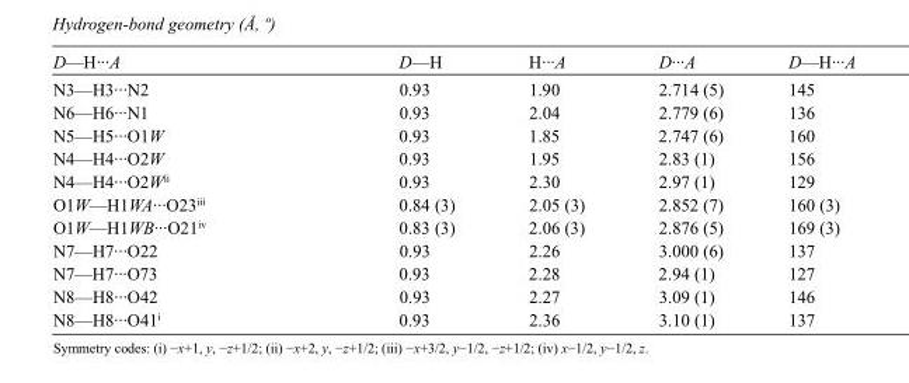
<table><tbody><tr><td>D—H···A</td><td>D—H</td><td>H···A</td><td>D···A</td><td>D—H···A</td></tr><tr><td>N3—H3···N2</td><td>0.93</td><td>1.90</td><td>2.714 (5)</td><td>145</td></tr><tr><td>N6—H6···N1</td><td>0.93</td><td>2.04</td><td>2.779 (6)</td><td>136</td></tr><tr><td>N5—H5···O1W</td><td>0.93</td><td>1.85</td><td>2.747 (6)</td><td>160</td></tr><tr><td>N4—H4···O2W</td><td>0.93</td><td>1.95</td><td>2.83 (1)</td><td>156</td></tr><tr><td>N4—H4···O2W<sup>ii</sup></td><td>0.93</td><td>2.30</td><td>2.97 (1)</td><td>129</td></tr><tr><td>O1W—H1WA···O23<sup>iii</sup></td><td>0.84 (3)</td><td>2.05 (3)</td><td>2.852 (7)</td><td>160 (3)</td></tr><tr><td>O1W—H1WB···O21<sup>iv</sup></td><td>0.83 (3)</td><td>2.06 (3)</td><td>2.876 (5)</td><td>169 (3)</td></tr><tr><td>N7—H7···O22</td><td>0.93</td><td>2.26</td><td>3.000 (6)</td><td>137</td></tr><tr><td>N7—H7···O73</td><td>0.93</td><td>2.28</td><td>2.94 (1)</td><td>127</td></tr><tr><td>N8—H8···O42</td><td>0.93</td><td>2.27</td><td>3.09 (1)</td><td>146</td></tr><tr><td>N8—H8···O41<sup>i</sup></td><td>0.93</td><td>2.36</td><td>3.10 (1)</td><td>137</td></tr></tbody></table>